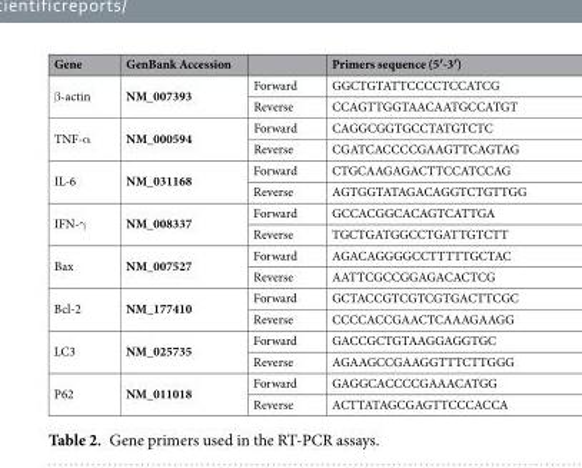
<table><thead><tr><td>Gene</td><td>GenBank Accession</td><td></td><td>Primers sequence (5′-3′)</td></tr></thead><tbody><tr><td rowspan="2">β-actin</td><td rowspan="2">NM_007393</td><td>Forward</td><td>GGCTGTATTCCCCTCCATCG</td></tr><tr><td>Reverse</td><td>CCAGTTGGTAACAATGCCATGT</td></tr><tr><td rowspan="2">TNF-α</td><td rowspan="2">NM_000594</td><td>Forward</td><td>CAGGCGGTGCCTATGTCTC</td></tr><tr><td>Reverse</td><td>CGATCACCCCGAAGTTCAGTAG</td></tr><tr><td rowspan="2">IL-6</td><td rowspan="2">NM_031168</td><td>Forward</td><td>CTGCAAGAGACTTCCATCCAG</td></tr><tr><td>Reverse</td><td>AGTGGTATAGACAGGTCTGTTGG</td></tr><tr><td rowspan="2">IFN-γ</td><td rowspan="2">NM_008337</td><td>Forward</td><td>GCCACGGCACAGTCATTGA</td></tr><tr><td>Reverse</td><td>TGCTGATGGCCTGATTGTCTT</td></tr><tr><td rowspan="2">Bax</td><td rowspan="2">NM_007527</td><td>Forward</td><td>AGACAGGGGCCTTTTTGCTAC</td></tr><tr><td>Reverse</td><td>AATTCGCCGGAGACACTCG</td></tr><tr><td rowspan="2">Bcl-2</td><td rowspan="2">NM_177410</td><td>Forward</td><td>GCTACCGTCGTCGTGACTTCGC</td></tr><tr><td>Reverse</td><td>CCCCACCGAACTCAAAGAAGG</td></tr><tr><td rowspan="2">LC3</td><td rowspan="2">NM_025735</td><td>Forward</td><td>GACCGCTGTAAGGAGGTGC</td></tr><tr><td>Reverse</td><td>AGAAGCCGAAGGTTTCTTGGG</td></tr><tr><td rowspan="2">P62</td><td rowspan="2">NM_011018</td><td>Forward</td><td>GAGGCACCCCGAAACATGG</td></tr><tr><td>Reverse</td><td>ACTTATAGCGAGTTCCCACCA</td></tr></tbody></table>